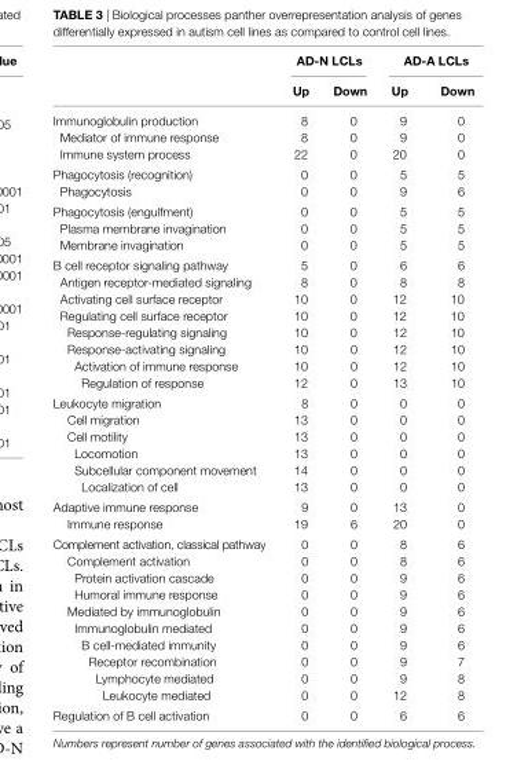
<table><thead><tr><td rowspan="2"></td><td colspan="2">aD-n lcls</td><td colspan="2">aD-a lcls</td></tr><tr><td>Up</td><td>Down</td><td>Up</td><td>Down</td></tr></thead><tbody><tr><td>Immunoglobulin production</td><td>8</td><td>0</td><td>9</td><td>0</td></tr><tr><td>Mediator of immune response</td><td>8</td><td>0</td><td>9</td><td>0</td></tr><tr><td>Immune system process</td><td>22</td><td>0</td><td>20</td><td>0</td></tr><tr><td>Phagocytosis (recognition)</td><td>0</td><td>0</td><td>5</td><td>5</td></tr><tr><td>Phagocytosis</td><td>0</td><td>0</td><td>9</td><td>6</td></tr><tr><td>Phagocytosis (engulfment)</td><td>0</td><td>0</td><td>5</td><td>5</td></tr><tr><td>Plasma membrane invagination</td><td>0</td><td>0</td><td>5</td><td>5</td></tr><tr><td>Membrane invagination</td><td>0</td><td>0</td><td>5</td><td>5</td></tr><tr><td>B cell receptor signaling pathway</td><td>5</td><td>0</td><td>6</td><td>6</td></tr><tr><td>Antigen receptor-mediated signaling</td><td>8</td><td>0</td><td>8</td><td>8</td></tr><tr><td>Activating cell surface receptor</td><td>10</td><td>0</td><td>12</td><td>10</td></tr><tr><td>Regulating cell surface receptor</td><td>10</td><td>0</td><td>12</td><td>10</td></tr><tr><td>Response-regulating signaling</td><td>10</td><td>0</td><td>12</td><td>10</td></tr><tr><td>Response-activating signaling</td><td>10</td><td>0</td><td>12</td><td>10</td></tr><tr><td>Activation of immune response</td><td>10</td><td>0</td><td>12</td><td>10</td></tr><tr><td>Regulation of response</td><td>12</td><td>0</td><td>13</td><td>10</td></tr><tr><td>Leukocyte migration</td><td>8</td><td>0</td><td>0</td><td>0</td></tr><tr><td>Cell migration</td><td>13</td><td>0</td><td>0</td><td>0</td></tr><tr><td>Cell motility</td><td>13</td><td>0</td><td>0</td><td>0</td></tr><tr><td>Locomotion</td><td>13</td><td>0</td><td>0</td><td>0</td></tr><tr><td>Subcellular component movement</td><td>14</td><td>0</td><td>0</td><td>0</td></tr><tr><td>Localization of cell</td><td>13</td><td>0</td><td>0</td><td>0</td></tr><tr><td>Adaptive immune response</td><td>9</td><td>0</td><td>13</td><td>0</td></tr><tr><td>Immune response</td><td>19</td><td>6</td><td>20</td><td>0</td></tr><tr><td>Complement activation, classical pathway</td><td>0</td><td>0</td><td>8</td><td>6</td></tr><tr><td>Complement activation</td><td>0</td><td>0</td><td>8</td><td>6</td></tr><tr><td>Protein activation cascade</td><td>0</td><td>0</td><td>9</td><td>6</td></tr><tr><td>Humoral immune response</td><td>0</td><td>0</td><td>9</td><td>6</td></tr><tr><td>Mediated by immunoglobulin</td><td>0</td><td>0</td><td>9</td><td>6</td></tr><tr><td>Immunoglobulin mediated</td><td>0</td><td>0</td><td>9</td><td>6</td></tr><tr><td>B cell-mediated immunity</td><td>0</td><td>0</td><td>9</td><td>6</td></tr><tr><td>Receptor recombination</td><td>0</td><td>0</td><td>9</td><td>7</td></tr><tr><td>Lymphocyte mediated</td><td>0</td><td>0</td><td>9</td><td>8</td></tr><tr><td>Leukocyte mediated</td><td>0</td><td>0</td><td>12</td><td>8</td></tr><tr><td>Regulation of B cell activation</td><td>0</td><td>0</td><td>6</td><td>6</td></tr></tbody></table>